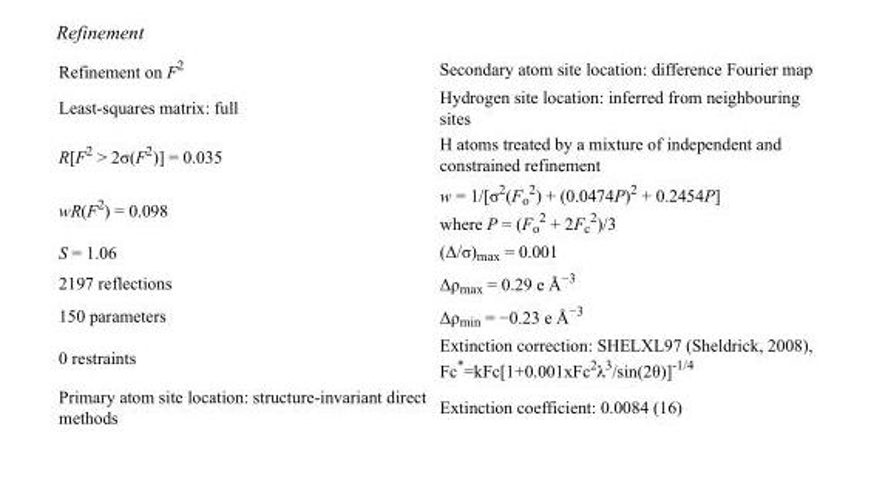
<table><tbody><tr><td>Refinement on F<sup>2</sup></td><td>Secondary atom site location: difference Fourier map</td></tr><tr><td>Least-squares matrix: full</td><td>Hydrogen site location: inferred from neighbouring sites</td></tr><tr><td>R[F<sup>2</sup> &gt; 2σ(F<sup>2</sup>)] = 0.035</td><td>H atoms treated by a mixture of independent and constrained refinement</td></tr><tr><td>wR(F<sup>2</sup>) = 0.098</td><td>w = 1/[σ<sup>2</sup>(F<sub>o</sub> <sup>2</sup>) + (0.0474P)<sup>2</sup> + 0.2454P] where P = (F<sub>o</sub> <sup>2</sup> + 2F<sub>c</sub> <sup>2</sup>)/3</td></tr><tr><td>S = 1.06</td><td>(Δ/σ)<sub>max</sub> = 0.001</td></tr><tr><td>2197 reflections</td><td>Δρ<sub>max</sub> = 0.29 e Å<sup>−3</sup></td></tr><tr><td>150 parameters</td><td>Δρ<sub>min</sub> = −0.23 e Å<sup>−3</sup></td></tr><tr><td>0 restraints</td><td>Extinction correction: SHELXL97 (Sheldrick, 2008), Fc*=kFc[1+0.001xFc<sup>2</sup>λ<sup>3</sup>/sin(2θ)]<sup>-1/4</sup></td></tr><tr><td>Primary atom site location: structure-invariant direct methods</td><td>Extinction coefficient: 0.0084 (16)</td></tr></tbody></table>